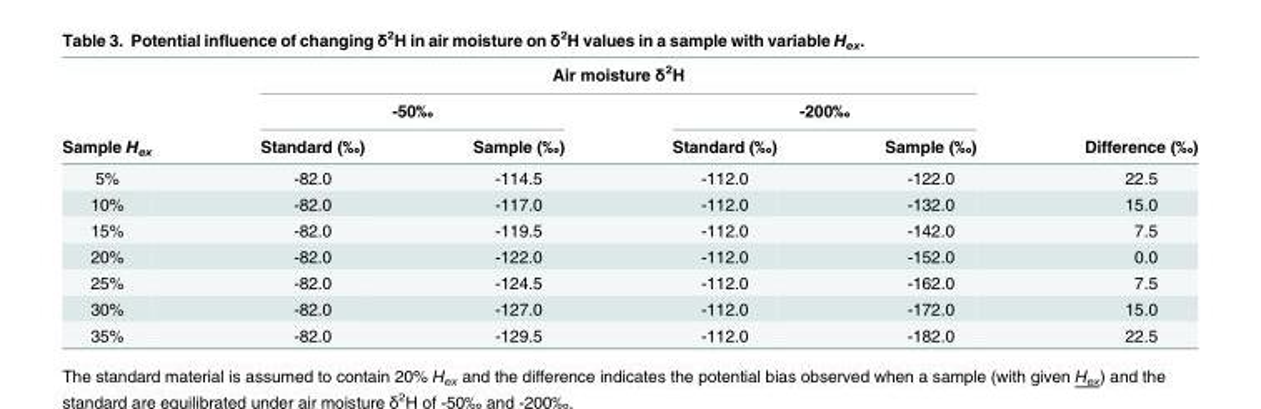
<table><thead><tr><td rowspan="3">Sample H<sub>ex</sub></td><td colspan="4">Air moisture δ<sup>2</sup>H</td><td rowspan="3">Difference (‰)</td></tr><tr><td colspan="2">-50‰</td><td colspan="2">-200‰</td></tr><tr><td>Standard (‰)</td><td>Sample (‰)</td><td>Standard (‰)</td><td>Sample (‰)</td></tr></thead><tbody><tr><td>5%</td><td>-82.0</td><td>-114.5</td><td>-112.0</td><td>-122.0</td><td>22.5</td></tr><tr><td>10%</td><td>-82.0</td><td>-117.0</td><td>-112.0</td><td>-132.0</td><td>15.0</td></tr><tr><td>15%</td><td>-82.0</td><td>-119.5</td><td>-112.0</td><td>-142.0</td><td>7.5</td></tr><tr><td>20%</td><td>-82.0</td><td>-122.0</td><td>-112.0</td><td>-152.0</td><td>0.0</td></tr><tr><td>25%</td><td>-82.0</td><td>-124.5</td><td>-112.0</td><td>-162.0</td><td>7.5</td></tr><tr><td>30%</td><td>-82.0</td><td>-127.0</td><td>-112.0</td><td>-172.0</td><td>15.0</td></tr><tr><td>35%</td><td>-82.0</td><td>-129.5</td><td>-112.0</td><td>-182.0</td><td>22.5</td></tr></tbody></table>